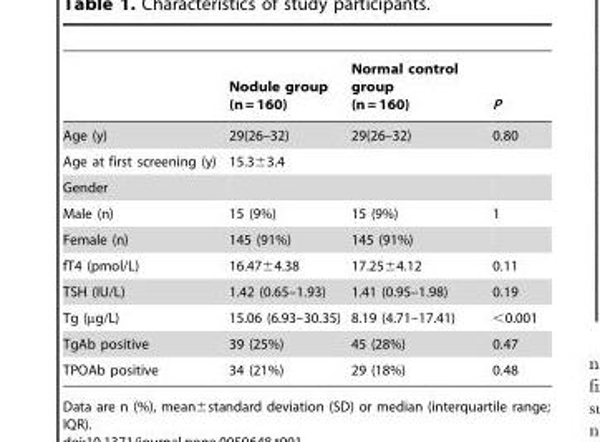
<table><thead><tr><td></td><td>Nodule group (n = 160)</td><td>Normal control group (n = 160)</td><td>P</td></tr></thead><tbody><tr><td>Age (y)</td><td>29(26–32)</td><td>29(26–32)</td><td>0.80</td></tr><tr><td>Age at first screening (y)</td><td>15.3±3.4</td><td></td><td></td></tr><tr><td colspan="4">Gender</td></tr><tr><td>Male (n)</td><td>15 (9%)</td><td>15 (9%)</td><td>1</td></tr><tr><td>Female (n)</td><td>145 (91%)</td><td>145 (91%)</td><td></td></tr><tr><td>fT4 (pmol/L)</td><td>16.47±4.38</td><td>17.25±4.12</td><td>0.11</td></tr><tr><td>TSH (IU/L)</td><td>1.42 (0.65–1.93)</td><td>1.41 (0.95–1.98)</td><td>0.19</td></tr><tr><td>Tg (µg/L)</td><td>15.06 (6.93–30.35)</td><td>8.19 (4.71–17.41)</td><td>&lt;0.001</td></tr><tr><td>TgAb positive</td><td>39 (25%)</td><td>45 (28%)</td><td>0.47</td></tr><tr><td>TPOAb positive</td><td>34 (21%)</td><td>29 (18%)</td><td>0.48</td></tr></tbody></table>